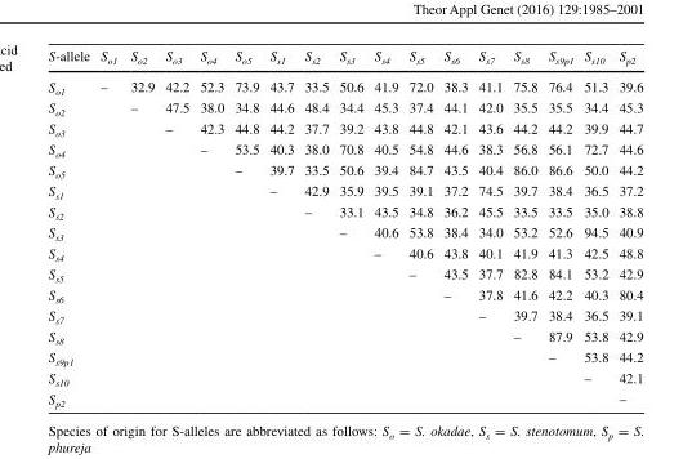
<table><thead><tr><td>S-allele</td><td>S<sub>o1</sub></td><td>S<sub>o2</sub></td><td>S<sub>o3</sub></td><td>S<sub>o4</sub></td><td>S<sub>o5</sub></td><td>S<sub>s1</sub></td><td>S<sub>s2</sub></td><td>S<sub>s3</sub></td><td>S<sub>s4</sub></td><td>S<sub>s5</sub></td><td>S<sub>s6</sub></td><td>S<sub>s7</sub></td><td>S<sub>s8</sub></td><td>S<sub>s9p1</sub></td><td>S<sub>s10</sub></td><td>S<sub>p2</sub></td></tr></thead><tbody><tr><td>S<sub>o1</sub></td><td>–</td><td>32.9</td><td>42.2</td><td>52.3</td><td>73.9</td><td>43.7</td><td>33.5</td><td>50.6</td><td>41.9</td><td>72.0</td><td>38.3</td><td>41.1</td><td>75.8</td><td>76.4</td><td>51.3</td><td>39.6</td></tr><tr><td>S<sub>o2</sub></td><td></td><td>–</td><td>47.5</td><td>38.0</td><td>34.8</td><td>44.6</td><td>48.4</td><td>34.4</td><td>45.3</td><td>37.4</td><td>44.1</td><td>42.0</td><td>35.5</td><td>35.5</td><td>34.4</td><td>45.3</td></tr><tr><td>S<sub>o3</sub></td><td></td><td></td><td>–</td><td>42.3</td><td>44.8</td><td>44.2</td><td>37.7</td><td>39.2</td><td>43.8</td><td>44.8</td><td>42.1</td><td>43.6</td><td>44.2</td><td>44.2</td><td>39.9</td><td>44.7</td></tr><tr><td>S<sub>o4</sub></td><td></td><td></td><td></td><td>–</td><td>53.5</td><td>40.3</td><td>38.0</td><td>70.8</td><td>40.5</td><td>54.8</td><td>44.6</td><td>38.3</td><td>56.8</td><td>56.1</td><td>72.7</td><td>44.6</td></tr><tr><td>S<sub>o5</sub></td><td></td><td></td><td></td><td></td><td>–</td><td>39.7</td><td>33.5</td><td>50.6</td><td>39.4</td><td>84.7</td><td>43.5</td><td>40.4</td><td>86.0</td><td>86.6</td><td>50.0</td><td>44.2</td></tr><tr><td>S<sub>s1</sub></td><td></td><td></td><td></td><td></td><td></td><td>–</td><td>42.9</td><td>35.9</td><td>39.5</td><td>39.1</td><td>37.2</td><td>74.5</td><td>39.7</td><td>38.4</td><td>36.5</td><td>37.2</td></tr><tr><td>S<sub>s2</sub></td><td></td><td></td><td></td><td></td><td></td><td></td><td>–</td><td>33.1</td><td>43.5</td><td>34.8</td><td>36.2</td><td>45.5</td><td>33.5</td><td>33.5</td><td>35.0</td><td>38.8</td></tr><tr><td>S<sub>s3</sub></td><td></td><td></td><td></td><td></td><td></td><td></td><td></td><td>–</td><td>40.6</td><td>53.8</td><td>38.4</td><td>34.0</td><td>53.2</td><td>52.6</td><td>94.5</td><td>40.9</td></tr><tr><td>S<sub>s4</sub></td><td></td><td></td><td></td><td></td><td></td><td></td><td></td><td></td><td>–</td><td>40.6</td><td>43.8</td><td>40.1</td><td>41.9</td><td>41.3</td><td>42.5</td><td>48.8</td></tr><tr><td>S<sub>s5</sub></td><td></td><td></td><td></td><td></td><td></td><td></td><td></td><td></td><td></td><td>–</td><td>43.5</td><td>37.7</td><td>82.8</td><td>84.1</td><td>53.2</td><td>42.9</td></tr><tr><td>S<sub>s6</sub></td><td></td><td></td><td></td><td></td><td></td><td></td><td></td><td></td><td></td><td></td><td>–</td><td>37.8</td><td>41.6</td><td>42.2</td><td>40.3</td><td>80.4</td></tr><tr><td>S<sub>s7</sub></td><td></td><td></td><td></td><td></td><td></td><td></td><td></td><td></td><td></td><td></td><td></td><td>–</td><td>39.7</td><td>38.4</td><td>36.5</td><td>39.1</td></tr><tr><td>S<sub>s8</sub></td><td></td><td></td><td></td><td></td><td></td><td></td><td></td><td></td><td></td><td></td><td></td><td></td><td>–</td><td>87.9</td><td>53.8</td><td>42.9</td></tr><tr><td>S<sub>s9p1</sub></td><td></td><td></td><td></td><td></td><td></td><td></td><td></td><td></td><td></td><td></td><td></td><td></td><td></td><td>–</td><td>53.8</td><td>44.2</td></tr><tr><td>S<sub>s10</sub></td><td></td><td></td><td></td><td></td><td></td><td></td><td></td><td></td><td></td><td></td><td></td><td></td><td></td><td></td><td>–</td><td>42.1</td></tr><tr><td>S<sub>p2</sub></td><td></td><td></td><td></td><td></td><td></td><td></td><td></td><td></td><td></td><td></td><td></td><td></td><td></td><td></td><td></td><td>–</td></tr></tbody></table>